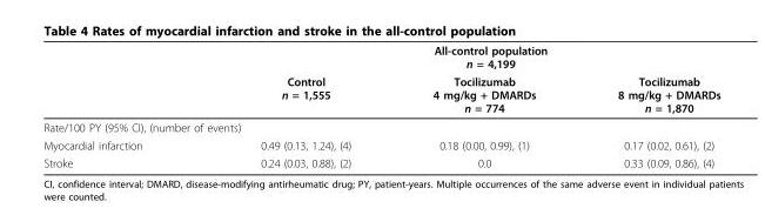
<table><thead><tr><td rowspan="2"></td><td colspan="3">All-control population n = 4,199</td></tr><tr><td>Control n = 1,555</td><td>Tocilizumab 4 mg/kg + DMARDs n = 774</td><td>Tocilizumab 8 mg/kg + DMARDs n = 1,870</td></tr></thead><tbody><tr><td colspan="4">Rate/100 PY (95% CI), (number of events)</td></tr><tr><td>Myocardial infarction</td><td>0.49 (0.13, 1.24), (4)</td><td>0.18 (0.00, 0.99), (1)</td><td>0.17 (0.02, 0.61), (2)</td></tr><tr><td>Stroke</td><td>0.24 (0.03, 0.88), (2)</td><td>0.0</td><td>0.33 (0.09, 0.86), (4)</td></tr></tbody></table>